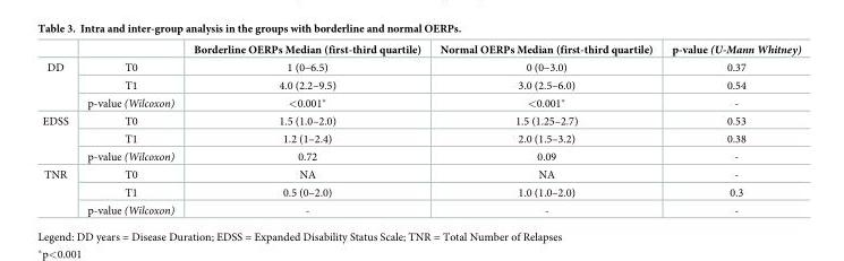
<table><thead><tr><td></td><td></td><td>Borderline OERPs Median (first-third quartile)</td><td>Normal OERPs Median (first-third quartile)</td><td>p-value (U-Mann Whitney)</td></tr></thead><tbody><tr><td rowspan="3">DD</td><td>T0</td><td>1 (0–6.5)</td><td>0 (0–3.0)</td><td>0.37</td></tr><tr><td>T1</td><td>4.0 (2.2–9.5)</td><td>3.0 (2.5–6.0)</td><td>0.54</td></tr><tr><td>p-value (Wilcoxon)</td><td>&lt;0.001*</td><td>&lt;0.001*</td><td>-</td></tr><tr><td rowspan="3">EDSS</td><td>T0</td><td>1.5 (1.0–2.0)</td><td>1.5 (1.25–2.7)</td><td>0.53</td></tr><tr><td>T1</td><td>1.2 (1–2.4)</td><td>2.0 (1.5–3.2)</td><td>0.38</td></tr><tr><td>p-value (Wilcoxon)</td><td>0.72</td><td>0.09</td><td>-</td></tr><tr><td rowspan="3">TNR</td><td>T0</td><td>NA</td><td>NA</td><td>-</td></tr><tr><td>T1</td><td>0.5 (0–2.0)</td><td>1.0 (1.0–2.0)</td><td>0.3</td></tr><tr><td>p-value (Wilcoxon)</td><td>-</td><td>-</td><td>-</td></tr></tbody></table>